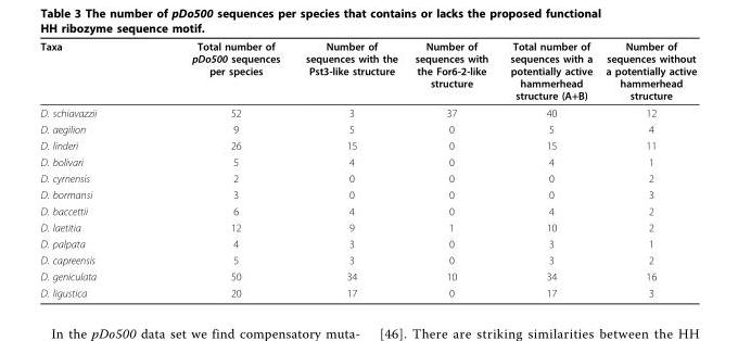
<table><thead><tr><td>Taxa</td><td>Total number of pDo500 sequences per species</td><td>Number of sequences with the Pst3-like structure</td><td>Number of sequences with the For6-2-like structure</td><td>Total number of sequences with a potentially active hammerhead structure (A+B)</td><td>Number of sequences without a potentially active hammerhead structure</td></tr></thead><tbody><tr><td>D. schiavazzii</td><td>52</td><td>3</td><td>37</td><td>40</td><td>12</td></tr><tr><td>D. aegilion</td><td>9</td><td>5</td><td>0</td><td>5</td><td>4</td></tr><tr><td>D. linderi</td><td>26</td><td>15</td><td>0</td><td>15</td><td>11</td></tr><tr><td>D. bolivari</td><td>5</td><td>4</td><td>0</td><td>4</td><td>1</td></tr><tr><td>D. cyrnensis</td><td>2</td><td>0</td><td>0</td><td>0</td><td>2</td></tr><tr><td>D. bormansi</td><td>3</td><td>0</td><td>0</td><td>0</td><td>3</td></tr><tr><td>D. baccettii</td><td>6</td><td>4</td><td>0</td><td>4</td><td>2</td></tr><tr><td>D. laetitia</td><td>12</td><td>9</td><td>1</td><td>10</td><td>2</td></tr><tr><td>D. palpata</td><td>4</td><td>3</td><td>0</td><td>3</td><td>1</td></tr><tr><td>D. capreensis</td><td>5</td><td>3</td><td>0</td><td>3</td><td>2</td></tr><tr><td>D. geniculata</td><td>50</td><td>34</td><td>10</td><td>34</td><td>16</td></tr><tr><td>D. ligustica</td><td>20</td><td>17</td><td>0</td><td>17</td><td>3</td></tr></tbody></table>